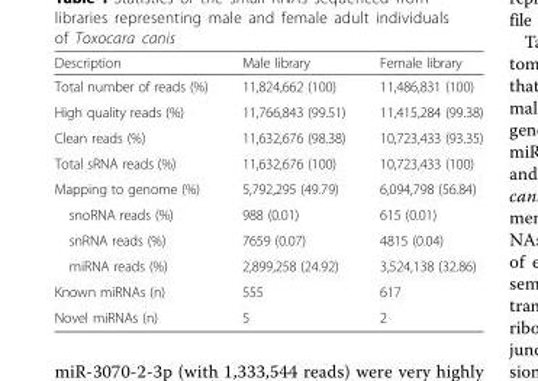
<table><thead><tr><td>Description</td><td>Male library</td><td>Female library</td></tr></thead><tbody><tr><td>Total number of reads (%)</td><td>11,824,662 (100)</td><td>11,486,831 (100)</td></tr><tr><td>High quality reads (%)</td><td>11,766,843 (99.51)</td><td>11,415,284 (99.38)</td></tr><tr><td>Clean reads (%)</td><td>11,632,676 (98.38)</td><td>10,723,433 (93.35)</td></tr><tr><td>Total sRNA reads (%)</td><td>11,632,676 (100)</td><td>10,723,433 (100)</td></tr><tr><td>Mapping to genome (%)</td><td>5,792,295 (49.79)</td><td>6,094,798 (56.84)</td></tr><tr><td>snoRNA reads (%)</td><td>988 (0.01)</td><td>615 (0.01)</td></tr><tr><td>snRNA reads (%)</td><td>7659 (0.07)</td><td>4815 (0.04)</td></tr><tr><td>miRNA reads (%)</td><td>2,899,258 (24.92)</td><td>3,524,138 (32.86)</td></tr><tr><td>Known miRNAs (n)</td><td>555</td><td>617</td></tr><tr><td>Novel miRNAs (n)</td><td>5</td><td>2</td></tr></tbody></table>